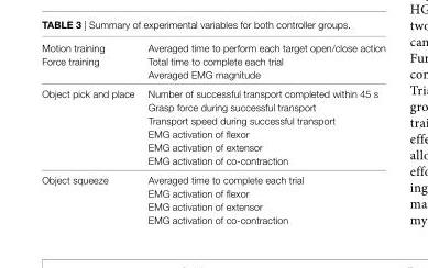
<table><tbody><tr><td>Motion training</td><td>Averaged time to perform each target open/close action</td></tr><tr><td rowspan="2">Force training</td><td>Total time to complete each trial</td></tr><tr><td>Averaged EMG magnitude</td></tr><tr><td rowspan="6">Object pick and place</td><td>Number of successful transport completed within 45 s</td></tr><tr><td>Grasp force during successful transport</td></tr><tr><td>Transport speed during successful transport</td></tr><tr><td>EMG activation of flexor</td></tr><tr><td>EMG activation of extensor</td></tr><tr><td>EMG activation of co-contraction</td></tr><tr><td rowspan="4">Object squeeze</td><td>Averaged time to complete each trial</td></tr><tr><td>EMG activation of flexor</td></tr><tr><td>EMG activation of extensor</td></tr><tr><td>EMG activation of co-contraction</td></tr></tbody></table>